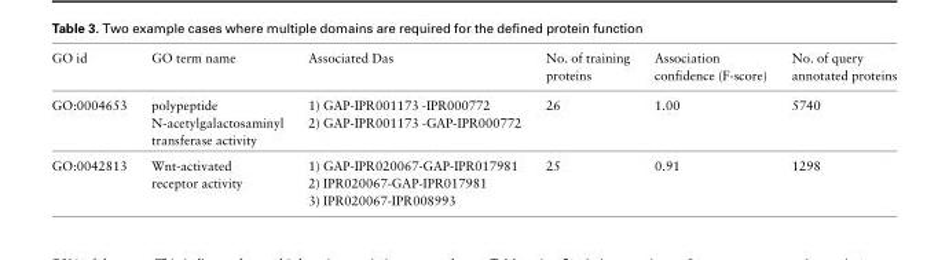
<table><thead><tr><td>GO id</td><td>GO term name</td><td>Associated Das</td><td>No. of training proteins</td><td>Association confidence (F-score)</td><td>No. of query annotated proteins</td></tr></thead><tbody><tr><td>GO:0004653</td><td>polypeptide N-acetylgalactosaminyl transferase activity</td><td>1) GAP-IPR001173 -IPR000772 2) GAP-IPR001173 -GAP-IPR000772</td><td>26</td><td>1.00</td><td>5740</td></tr><tr><td>GO:0042813</td><td>Wnt-activated receptor activity</td><td>1) GAP-IPR020067-GAP-IPR017981 2) IPR020067-GAP-IPR017981 3) IPR020067-IPR008993</td><td>25</td><td>0.91</td><td>1298</td></tr></tbody></table>